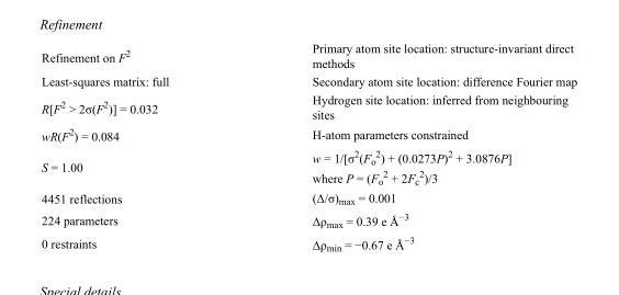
<table><tbody><tr><td>Refinement on F<sup>2</sup></td><td>Primary atom site location: structure-invariant direct methods</td></tr><tr><td>Least-squares matrix: full</td><td>Secondary atom site location: difference Fourier map</td></tr><tr><td>R[F<sup>2</sup> &gt; 2σ(F<sup>2</sup>)] = 0.032</td><td>Hydrogen site location: inferred from neighbouring sites</td></tr><tr><td>wR(F<sup>2</sup>) = 0.084</td><td>H-atom parameters constrained</td></tr><tr><td>S = 1.00</td><td>w = 1/[σ<sup>2</sup>(F<sub>o</sub> <sup>2</sup>) + (0.0273P)<sup>2</sup> + 3.0876P] where P = (F<sub>o</sub> <sup>2</sup> + 2F<sub>c</sub> <sup>2</sup>)/3</td></tr><tr><td>4451 reflections</td><td>(Δ/σ)<sub>max</sub> = 0.001</td></tr><tr><td>224 parameters</td><td>Δρ<sub>max</sub> = 0.39 e Å<sup>−3</sup></td></tr><tr><td>0 restraints</td><td>Δρ<sub>min</sub> = −0.67 e Å<sup>−3</sup></td></tr></tbody></table>